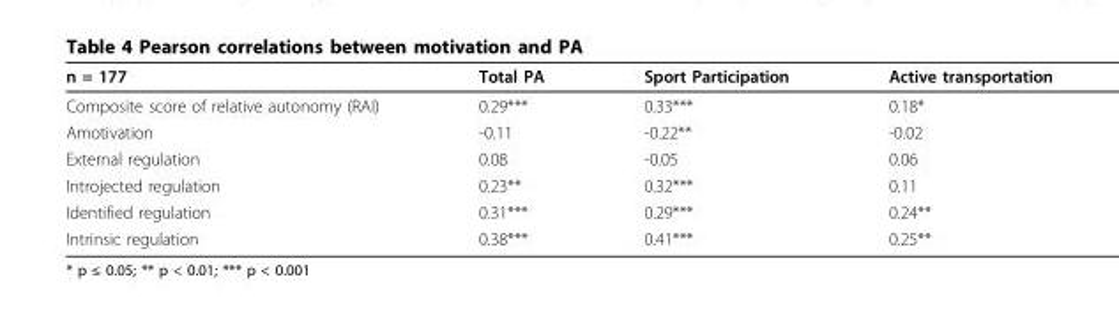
<table><thead><tr><td>n = 177</td><td>Total PA</td><td>Sport Participation</td><td>Active transportation</td></tr></thead><tbody><tr><td>Composite score of relative autonomy (RAI)</td><td>0.29***</td><td>0.33***</td><td>0.18*</td></tr><tr><td>Amotivation</td><td>-0.11</td><td>-0.22**</td><td>-0.02</td></tr><tr><td>External regulation</td><td>0.08</td><td>-0.05</td><td>0.06</td></tr><tr><td>Introjected regulation</td><td>0.23**</td><td>0.32***</td><td>0.11</td></tr><tr><td>Identified regulation</td><td>0.31***</td><td>0.29***</td><td>0.24**</td></tr><tr><td>Intrinsic regulation</td><td>0.38***</td><td>0.41***</td><td>0.25**</td></tr></tbody></table>